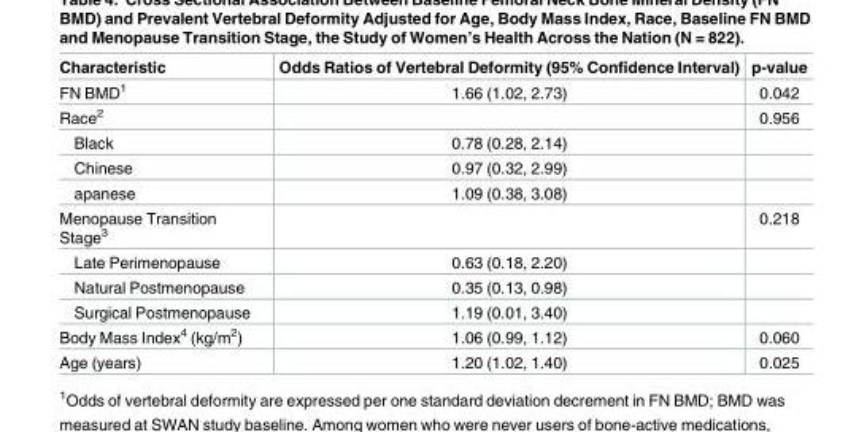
<table><thead><tr><td>Characteristic</td><td>Odds Ratios of Vertebral Deformity (95% Confidence Interval)</td><td>p-value</td></tr></thead><tbody><tr><td>FN BMD<sup>1</sup></td><td>1.66 (1.02, 2.73)</td><td>0.042</td></tr><tr><td>Race<sup>2</sup></td><td></td><td>0.956</td></tr><tr><td>Black</td><td>0.78 (0.28, 2.14)</td><td></td></tr><tr><td>Chinese</td><td>0.97 (0.32, 2.99)</td><td></td></tr><tr><td>apanese</td><td>1.09 (0.38, 3.08)</td><td></td></tr><tr><td>Menopause Transition Stage<sup>3</sup></td><td></td><td>0.218</td></tr><tr><td>Late Perimenopause</td><td>0.63 (0.18, 2.20)</td><td></td></tr><tr><td>Natural Postmenopause</td><td>0.35 (0.13, 0.98)</td><td></td></tr><tr><td>Surgical Postmenopause</td><td>1.19 (0.01, 3.40)</td><td></td></tr><tr><td>Body Mass Index<sup>4</sup> (kg/m<sup>2</sup>)</td><td>1.06 (0.99, 1.12)</td><td>0.060</td></tr><tr><td>Age (years)</td><td>1.20 (1.02, 1.40)</td><td>0.025</td></tr></tbody></table>